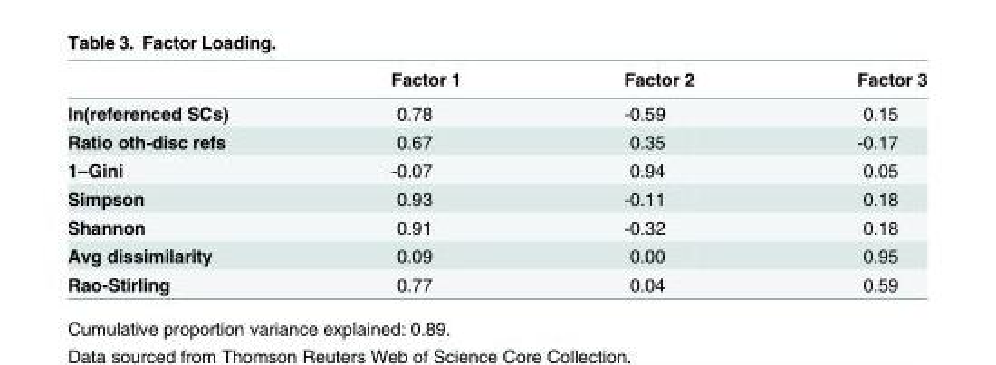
<table><thead><tr><td></td><td>Factor 1</td><td>Factor 2</td><td>Factor 3</td></tr></thead><tbody><tr><td>ln(referenced SCs)</td><td>0.78</td><td>-0.59</td><td>0.15</td></tr><tr><td>Ratio oth-disc refs</td><td>0.67</td><td>0.35</td><td>-0.17</td></tr><tr><td>1–Gini</td><td>-0.07</td><td>0.94</td><td>0.05</td></tr><tr><td>Simpson</td><td>0.93</td><td>-0.11</td><td>0.18</td></tr><tr><td>Shannon</td><td>0.91</td><td>-0.32</td><td>0.18</td></tr><tr><td>Avg dissimilarity</td><td>0.09</td><td>0.00</td><td>0.95</td></tr><tr><td>Rao-Stirling</td><td>0.77</td><td>0.04</td><td>0.59</td></tr></tbody></table>